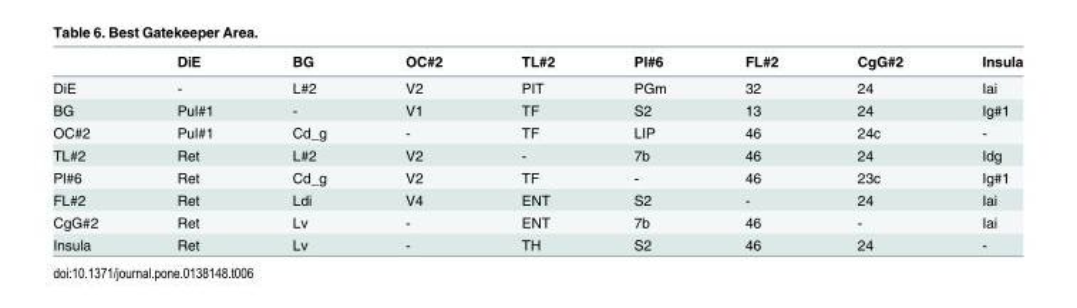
<table><thead><tr><td></td><td>DiE</td><td>BG</td><td>OC#2</td><td>TL#2</td><td>Pl#6</td><td>FL#2</td><td>CgG#2</td><td>Insula</td></tr></thead><tbody><tr><td>DiE</td><td>-</td><td>L#2</td><td>V2</td><td>PIT</td><td>PGm</td><td>32</td><td>24</td><td>Iai</td></tr><tr><td>BG</td><td>Pul#1</td><td>-</td><td>V1</td><td>TF</td><td>S2</td><td>13</td><td>24</td><td>Ig#1</td></tr><tr><td>OC#2</td><td>Pul#1</td><td>Cd_g</td><td>-</td><td>TF</td><td>LIP</td><td>46</td><td>24c</td><td>-</td></tr><tr><td>TL#2</td><td>Ret</td><td>L#2</td><td>V2</td><td>-</td><td>7b</td><td>46</td><td>24</td><td>Idg</td></tr><tr><td>Pl#6</td><td>Ret</td><td>Cd_g</td><td>V2</td><td>TF</td><td>-</td><td>46</td><td>23c</td><td>Ig#1</td></tr><tr><td>FL#2</td><td>Ret</td><td>Ldi</td><td>V4</td><td>ENT</td><td>S2</td><td>-</td><td>24</td><td>Iai</td></tr><tr><td>CgG#2</td><td>Ret</td><td>Lv</td><td>-</td><td>ENT</td><td>7b</td><td>46</td><td>-</td><td>Iai</td></tr><tr><td>Insula</td><td>Ret</td><td>Lv</td><td>-</td><td>TH</td><td>S2</td><td>46</td><td>24</td><td>-</td></tr></tbody></table>